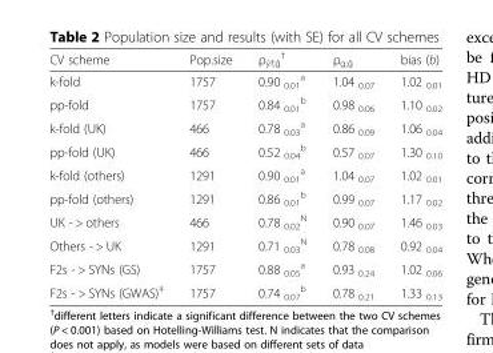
<table><thead><tr><td>CV scheme</td><td>Pop.size</td><td>ρ<sub>ӯf;ĝ</sub> <sup>†</sup></td><td>ρ<sub>g;ĝ</sub></td><td>bias (b)</td></tr></thead><tbody><tr><td>k-fold</td><td>1757</td><td>0.90 <sub>0.01</sub> <sup>a</sup></td><td>1.04 <sub>0.07</sub></td><td>1.02 <sub>0.01</sub></td></tr><tr><td>pp-fold</td><td>1757</td><td>0.84 <sub>0.01</sub> <sup>b</sup></td><td>0.98 <sub>0.06</sub></td><td>1.10 <sub>0.02</sub></td></tr><tr><td>k-fold (UK)</td><td>466</td><td>0.78 <sub>0.03</sub> <sup>a</sup></td><td>0.86 <sub>0.09</sub></td><td>1.06 <sub>0.04</sub></td></tr><tr><td>pp-fold (UK)</td><td>466</td><td>0.52 <sub>0.04</sub> <sup>b</sup></td><td>0.57 <sub>0.07</sub></td><td>1.30 <sub>0.10</sub></td></tr><tr><td>k-fold (others)</td><td>1291</td><td>0.90 <sub>0.01</sub> <sup>a</sup></td><td>1.04 <sub>0.07</sub></td><td>1.02 <sub>0.01</sub></td></tr><tr><td>pp-fold (others)</td><td>1291</td><td>0.86 <sub>0.01</sub> <sup>b</sup></td><td>0.99 <sub>0.07</sub></td><td>1.17 <sub>0.02</sub></td></tr><tr><td>UK - &gt; others</td><td>466</td><td>0.78 <sub>0.02</sub> <sup>N</sup></td><td>0.90 <sub>0.07</sub></td><td>1.46 <sub>0.03</sub></td></tr><tr><td>Others - &gt; UK</td><td>1291</td><td>0.71 <sub>0.03</sub> <sup>N</sup></td><td>0.78 <sub>0.08</sub></td><td>0.92 <sub>0.04</sub></td></tr><tr><td>F2s - &gt; SYNs (GS)</td><td>1757</td><td>0.88 <sub>0.05</sub> <sup>a</sup></td><td>0.93 <sub>0.24</sub></td><td>1.02 <sub>0.06</sub></td></tr><tr><td>F2s - &gt; SYNs (GWAS)<sup>‡</sup></td><td>1757</td><td>0.74 <sub>0.07</sub> <sup>b</sup></td><td>0.78 <sub>0.21</sub></td><td>1.33 <sub>0.13</sub></td></tr></tbody></table>